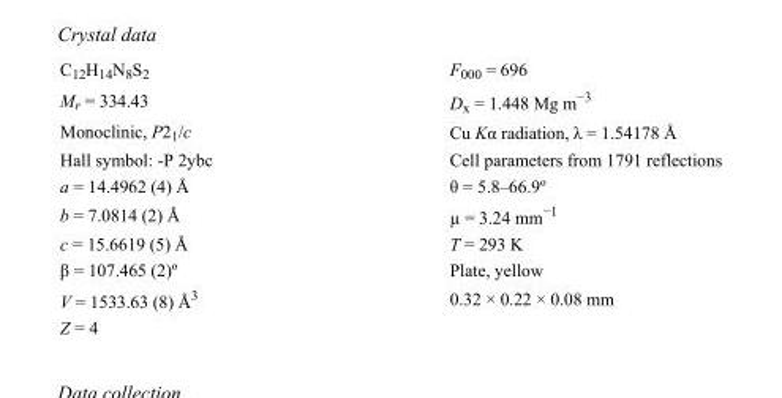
<table><tbody><tr><td>C<sub>12</sub>H<sub>14</sub>N<sub>8</sub>S<sub>2</sub></td><td>F000 = 696</td></tr><tr><td>M<sub>r</sub> = 334.43</td><td>D<sub>x</sub> = 1.448 Mg m<sup>−3</sup></td></tr><tr><td>Monoclinic, P2<sub>1</sub>/c</td><td>Cu Kα radiation, λ = 1.54178 Å</td></tr><tr><td>Hall symbol: -P 2ybc</td><td>Cell parameters from 1791 reflections</td></tr><tr><td>a = 14.4962 (4) Å</td><td>θ = 5.8–66.9º</td></tr><tr><td>b = 7.0814 (2) Å</td><td>µ = 3.24 mm<sup>−1</sup></td></tr><tr><td>c = 15.6619 (5) Å</td><td>T = 293 K</td></tr><tr><td>β = 107.465 (2)º</td><td>Plate, yellow</td></tr><tr><td>V = 1533.63 (8) Å<sup>3</sup></td><td>0.32 × 0.22 × 0.08 mm</td></tr><tr><td>Z = 4</td><td></td></tr></tbody></table>